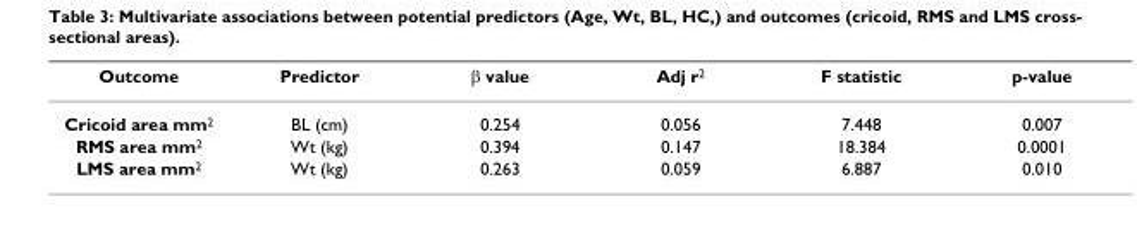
<table><thead><tr><td>Outcome</td><td>Predictor</td><td>β value</td><td>Adj r2</td><td>F statistic</td><td>p-value</td></tr></thead><tbody><tr><td>Cricoid area mm2</td><td>BL (cm)</td><td>0.254</td><td>0.056</td><td>7.448</td><td>0.007</td></tr><tr><td>RMS area mm2</td><td>Wt (kg)</td><td>0.394</td><td>0.147</td><td>18.384</td><td>0.0001</td></tr><tr><td>LMS area mm2</td><td>Wt (kg)</td><td>0.263</td><td>0.059</td><td>6.887</td><td>0.010</td></tr></tbody></table>